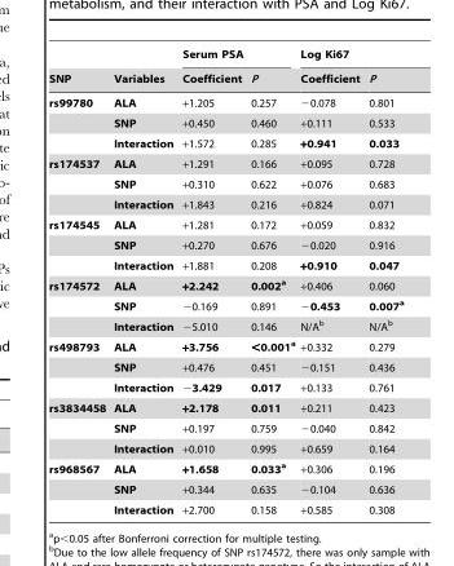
<table><thead><tr><td rowspan="2">SNP</td><td rowspan="2">Variables</td><td colspan="2">Serum PSA</td><td colspan="2">Log Ki67</td></tr><tr><td>Coefficient</td><td>P</td><td>Coefficient</td><td>P</td></tr></thead><tbody><tr><td rowspan="3">rs99780</td><td>ALA</td><td>+1.205</td><td>0.257</td><td>−0.078</td><td>0.801</td></tr><tr><td>SNP</td><td>+0.450</td><td>0.460</td><td>+0.111</td><td>0.533</td></tr><tr><td>Interaction</td><td>+1.572</td><td>0.285</td><td>+0.941</td><td>0.033</td></tr><tr><td rowspan="3">rs174537</td><td>ALA</td><td>+1.291</td><td>0.166</td><td>+0.095</td><td>0.728</td></tr><tr><td>SNP</td><td>+0.310</td><td>0.622</td><td>+0.076</td><td>0.683</td></tr><tr><td>Interaction</td><td>+1.843</td><td>0.216</td><td>+0.824</td><td>0.071</td></tr><tr><td rowspan="3">rs174545</td><td>ALA</td><td>+1.281</td><td>0.172</td><td>+0.059</td><td>0.832</td></tr><tr><td>SNP</td><td>+0.270</td><td>0.676</td><td>−0.020</td><td>0.916</td></tr><tr><td>Interaction</td><td>+1.881</td><td>0.208</td><td>+0.910</td><td>0.047</td></tr><tr><td rowspan="3">rs174572</td><td>ALA</td><td>+2.242</td><td>0.002a</td><td>+0.406</td><td>0.060</td></tr><tr><td>SNP</td><td>−0.169</td><td>0.891</td><td>−0.453</td><td>0.007a</td></tr><tr><td>Interaction</td><td>−5.010</td><td>0.146</td><td>N/A<sup>b</sup></td><td>N/A<sup>b</sup></td></tr><tr><td rowspan="3">rs498793</td><td>ALA</td><td>+3.756</td><td>&lt;0.001a</td><td>+0.332</td><td>0.279</td></tr><tr><td>SNP</td><td>+0.476</td><td>0.451</td><td>−0.151</td><td>0.436</td></tr><tr><td>Interaction</td><td>−3.429</td><td>0.017</td><td>+0.133</td><td>0.761</td></tr><tr><td rowspan="3">rs3834458</td><td>ALA</td><td>+2.178</td><td>0.011</td><td>+0.211</td><td>0.423</td></tr><tr><td>SNP</td><td>+0.197</td><td>0.759</td><td>−0.040</td><td>0.842</td></tr><tr><td>Interaction</td><td>+0.010</td><td>0.995</td><td>+0.659</td><td>0.164</td></tr><tr><td rowspan="3">rs968567</td><td>ALA</td><td>+1.658</td><td>0.033a</td><td>+0.306</td><td>0.196</td></tr><tr><td>SNP</td><td>+0.344</td><td>0.635</td><td>−0.104</td><td>0.636</td></tr><tr><td>Interaction</td><td>+2.700</td><td>0.158</td><td>+0.585</td><td>0.308</td></tr></tbody></table>